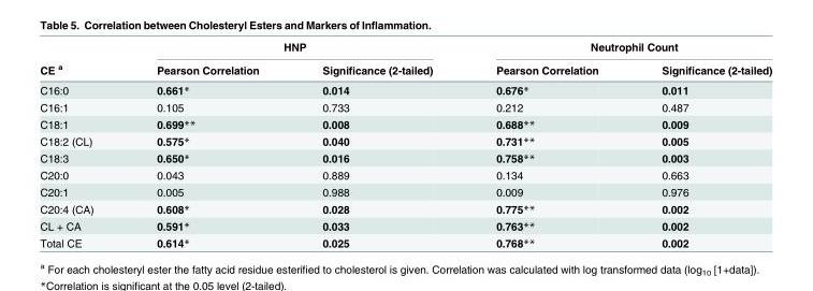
<table><thead><tr><td rowspan="2">CE <sup>a</sup></td><td colspan="2">HNP</td><td colspan="2">Neutrophil Count</td></tr><tr><td>Pearson Correlation</td><td>Significance (2-tailed)</td><td>Pearson Correlation</td><td>Significance (2-tailed)</td></tr></thead><tbody><tr><td>C16:0</td><td>0.661*</td><td>0.014</td><td>0.676*</td><td>0.011</td></tr><tr><td>C16:1</td><td>0.105</td><td>0.733</td><td>0.212</td><td>0.487</td></tr><tr><td>C18:1</td><td>0.699**</td><td>0.008</td><td>0.688**</td><td>0.009</td></tr><tr><td>C18:2 (CL)</td><td>0.575*</td><td>0.040</td><td>0.731**</td><td>0.005</td></tr><tr><td>C18:3</td><td>0.650*</td><td>0.016</td><td>0.758**</td><td>0.003</td></tr><tr><td>C20:0</td><td>0.043</td><td>0.889</td><td>0.134</td><td>0.663</td></tr><tr><td>C20:1</td><td>0.005</td><td>0.988</td><td>0.009</td><td>0.976</td></tr><tr><td>C20:4 (CA)</td><td>0.608*</td><td>0.028</td><td>0.775**</td><td>0.002</td></tr><tr><td>CL + CA</td><td>0.591*</td><td>0.033</td><td>0.763**</td><td>0.002</td></tr><tr><td>Total CE</td><td>0.614*</td><td>0.025</td><td>0.768**</td><td>0.002</td></tr></tbody></table>